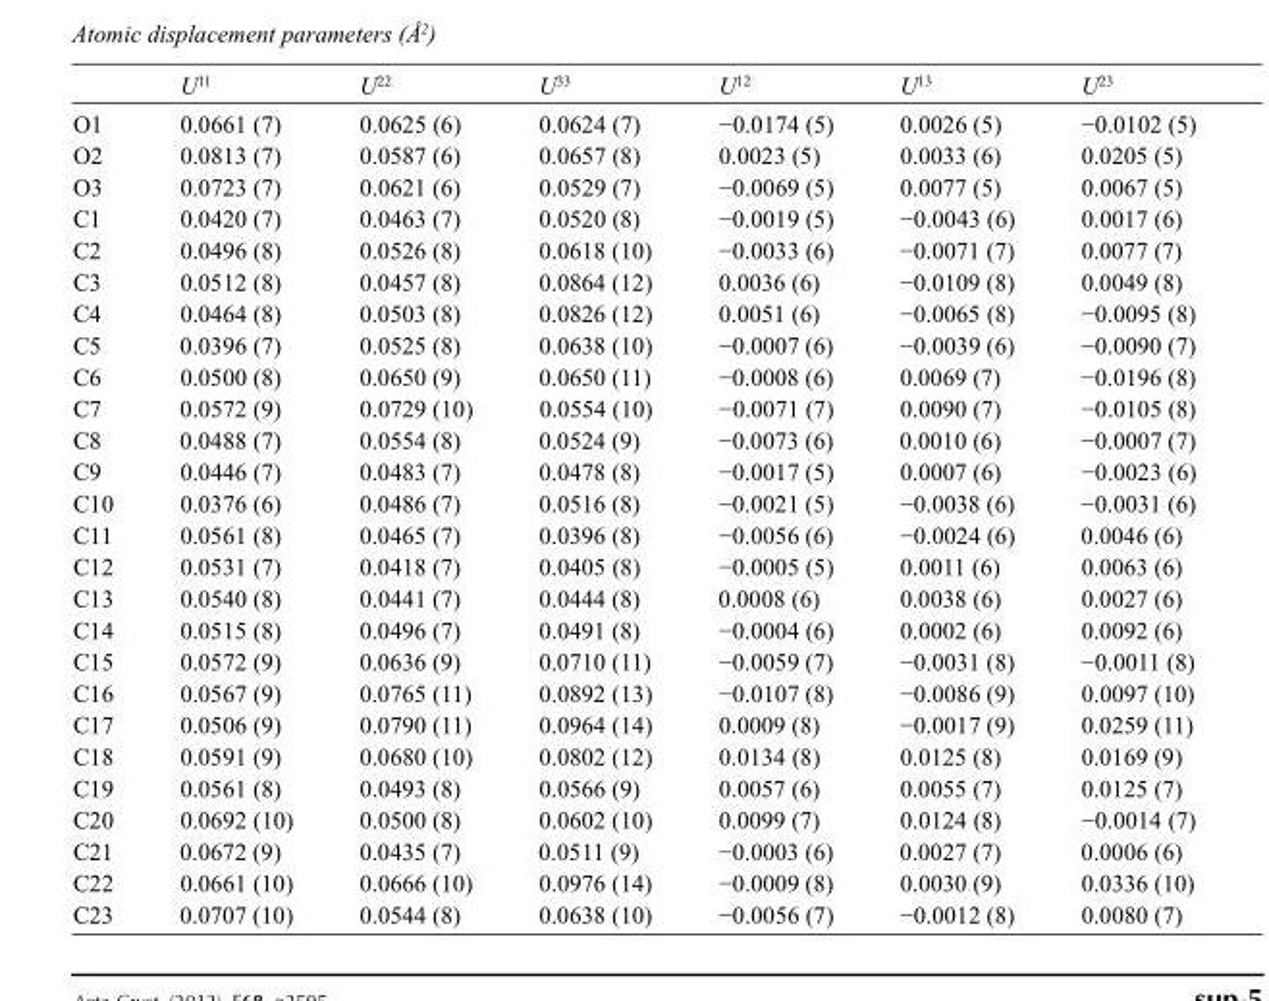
<table><thead><tr><td></td><td>U<sup>11</sup></td><td>U<sup>22</sup></td><td>U<sup>33</sup></td><td>U<sup>12</sup></td><td>U<sup>13</sup></td><td>U<sup>23</sup></td></tr></thead><tbody><tr><td>O1</td><td>0.0661 (7)</td><td>0.0625 (6)</td><td>0.0624 (7)</td><td>−0.0174 (5)</td><td>0.0026 (5)</td><td>−0.0102 (5)</td></tr><tr><td>O2</td><td>0.0813 (7)</td><td>0.0587 (6)</td><td>0.0657 (8)</td><td>0.0023 (5)</td><td>0.0033 (6)</td><td>0.0205 (5)</td></tr><tr><td>O3</td><td>0.0723 (7)</td><td>0.0621 (6)</td><td>0.0529 (7)</td><td>−0.0069 (5)</td><td>0.0077 (5)</td><td>0.0067 (5)</td></tr><tr><td>C1</td><td>0.0420 (7)</td><td>0.0463 (7)</td><td>0.0520 (8)</td><td>−0.0019 (5)</td><td>−0.0043 (6)</td><td>0.0017 (6)</td></tr><tr><td>C2</td><td>0.0496 (8)</td><td>0.0526 (8)</td><td>0.0618 (10)</td><td>−0.0033 (6)</td><td>−0.0071 (7)</td><td>0.0077 (7)</td></tr><tr><td>C3</td><td>0.0512 (8)</td><td>0.0457 (8)</td><td>0.0864 (12)</td><td>0.0036 (6)</td><td>−0.0109 (8)</td><td>0.0049 (8)</td></tr><tr><td>C4</td><td>0.0464 (8)</td><td>0.0503 (8)</td><td>0.0826 (12)</td><td>0.0051 (6)</td><td>−0.0065 (8)</td><td>−0.0095 (8)</td></tr><tr><td>C5</td><td>0.0396 (7)</td><td>0.0525 (8)</td><td>0.0638 (10)</td><td>−0.0007 (6)</td><td>−0.0039 (6)</td><td>−0.0090 (7)</td></tr><tr><td>C6</td><td>0.0500 (8)</td><td>0.0650 (9)</td><td>0.0650 (11)</td><td>−0.0008 (6)</td><td>0.0069 (7)</td><td>−0.0196 (8)</td></tr><tr><td>C7</td><td>0.0572 (9)</td><td>0.0729 (10)</td><td>0.0554 (10)</td><td>−0.0071 (7)</td><td>0.0090 (7)</td><td>−0.0105 (8)</td></tr><tr><td>C8</td><td>0.0488 (7)</td><td>0.0554 (8)</td><td>0.0524 (9)</td><td>−0.0073 (6)</td><td>0.0010 (6)</td><td>−0.0007 (7)</td></tr><tr><td>C9</td><td>0.0446 (7)</td><td>0.0483 (7)</td><td>0.0478 (8)</td><td>−0.0017 (5)</td><td>0.0007 (6)</td><td>−0.0023 (6)</td></tr><tr><td>C10</td><td>0.0376 (6)</td><td>0.0486 (7)</td><td>0.0516 (8)</td><td>−0.0021 (5)</td><td>−0.0038 (6)</td><td>−0.0031 (6)</td></tr><tr><td>C11</td><td>0.0561 (8)</td><td>0.0465 (7)</td><td>0.0396 (8)</td><td>−0.0056 (6)</td><td>−0.0024 (6)</td><td>0.0046 (6)</td></tr><tr><td>C12</td><td>0.0531 (7)</td><td>0.0418 (7)</td><td>0.0405 (8)</td><td>−0.0005 (5)</td><td>0.0011 (6)</td><td>0.0063 (6)</td></tr><tr><td>C13</td><td>0.0540 (8)</td><td>0.0441 (7)</td><td>0.0444 (8)</td><td>0.0008 (6)</td><td>0.0038 (6)</td><td>0.0027 (6)</td></tr><tr><td>C14</td><td>0.0515 (8)</td><td>0.0496 (7)</td><td>0.0491 (8)</td><td>−0.0004 (6)</td><td>0.0002 (6)</td><td>0.0092 (6)</td></tr><tr><td>C15</td><td>0.0572 (9)</td><td>0.0636 (9)</td><td>0.0710 (11)</td><td>−0.0059 (7)</td><td>−0.0031 (8)</td><td>−0.0011 (8)</td></tr><tr><td>C16</td><td>0.0567 (9)</td><td>0.0765 (11)</td><td>0.0892 (13)</td><td>−0.0107 (8)</td><td>−0.0086 (9)</td><td>0.0097 (10)</td></tr><tr><td>C17</td><td>0.0506 (9)</td><td>0.0790 (11)</td><td>0.0964 (14)</td><td>0.0009 (8)</td><td>−0.0017 (9)</td><td>0.0259 (11)</td></tr><tr><td>C18</td><td>0.0591 (9)</td><td>0.0680 (10)</td><td>0.0802 (12)</td><td>0.0134 (8)</td><td>0.0125 (8)</td><td>0.0169 (9)</td></tr><tr><td>C19</td><td>0.0561 (8)</td><td>0.0493 (8)</td><td>0.0566 (9)</td><td>0.0057 (6)</td><td>0.0055 (7)</td><td>0.0125 (7)</td></tr><tr><td>C20</td><td>0.0692 (10)</td><td>0.0500 (8)</td><td>0.0602 (10)</td><td>0.0099 (7)</td><td>0.0124 (8)</td><td>−0.0014 (7)</td></tr><tr><td>C21</td><td>0.0672 (9)</td><td>0.0435 (7)</td><td>0.0511 (9)</td><td>−0.0003 (6)</td><td>0.0027 (7)</td><td>0.0006 (6)</td></tr><tr><td>C22</td><td>0.0661 (10)</td><td>0.0666 (10)</td><td>0.0976 (14)</td><td>−0.0009 (8)</td><td>0.0030 (9)</td><td>0.0336 (10)</td></tr><tr><td>C23</td><td>0.0707 (10)</td><td>0.0544 (8)</td><td>0.0638 (10)</td><td>−0.0056 (7)</td><td>−0.0012 (8)</td><td>0.0080 (7)</td></tr></tbody></table>